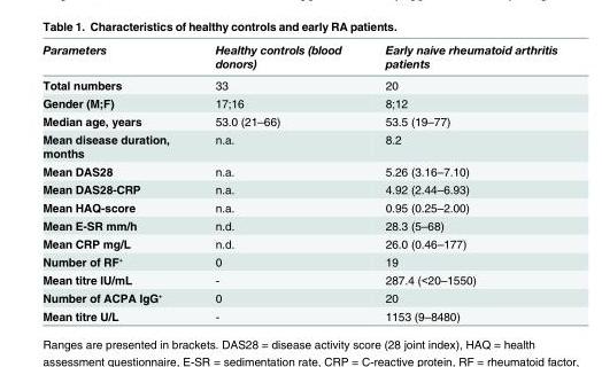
<table><thead><tr><td>Parameters</td><td>Healthy controls (blood donors)</td><td>Early naive rheumatoid arthritis patients</td></tr></thead><tbody><tr><td>Total numbers</td><td>33</td><td>20</td></tr><tr><td>Gender (M;F)</td><td>17;16</td><td>8;12</td></tr><tr><td>Median age, years</td><td>53.0 (21–66)</td><td>53.5 (19–77)</td></tr><tr><td>Mean disease duration, months</td><td>n.a.</td><td>8.2</td></tr><tr><td>Mean DAS28</td><td>n.a.</td><td>5.26 (3.16–7.10)</td></tr><tr><td>Mean DAS28-CRP</td><td>n.a.</td><td>4.92 (2.44–6.93)</td></tr><tr><td>Mean HAQ-score</td><td>n.a.</td><td>0.95 (0.25–2.00)</td></tr><tr><td>Mean E-SR mm/h</td><td>n.d.</td><td>28.3 (5–68)</td></tr><tr><td>Mean CRP mg/L</td><td>n.d.</td><td>26.0 (0.46–177)</td></tr><tr><td>Number of RF⁺</td><td>0</td><td>19</td></tr><tr><td>Mean titre IU/mL</td><td>-</td><td>287.4 (&lt;20–1550)</td></tr><tr><td>Number of ACPA IgG⁺</td><td>0</td><td>20</td></tr><tr><td>Mean titre U/L</td><td>-</td><td>1153 (9–8480)</td></tr></tbody></table>